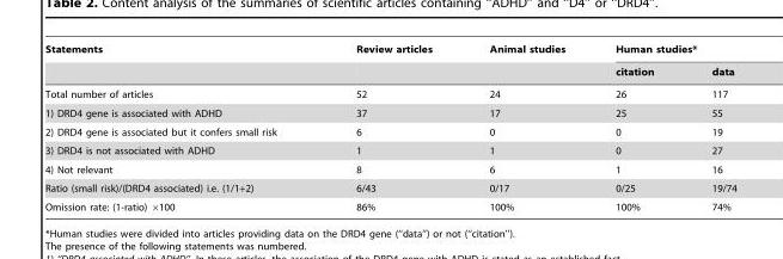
<table><thead><tr><td rowspan="2">Statements</td><td rowspan="2">Review articles</td><td rowspan="2">Animal studies</td><td colspan="2">Human studies*</td></tr><tr><td>citation</td><td>data</td></tr></thead><tbody><tr><td>Total number of articles</td><td>52</td><td>24</td><td>26</td><td>117</td></tr><tr><td>1) DRD4 gene is associated with ADHD</td><td>37</td><td>17</td><td>25</td><td>55</td></tr><tr><td>2) DRD4 gene is associated but it confers small risk</td><td>6</td><td>0</td><td>0</td><td>19</td></tr><tr><td>3) DRD4 is not associated with ADHD</td><td>1</td><td>1</td><td>0</td><td>27</td></tr><tr><td>4) Not relevant</td><td>8</td><td>6</td><td>1</td><td>16</td></tr><tr><td>Ratio (small risk)/(DRD4 associated) i.e. (1/1+2)</td><td>6/43</td><td>0/17</td><td>0/25</td><td>19/74</td></tr><tr><td>Omission rate: (1-ratio) ×100</td><td>86%</td><td>100%</td><td>100%</td><td>74%</td></tr></tbody></table>